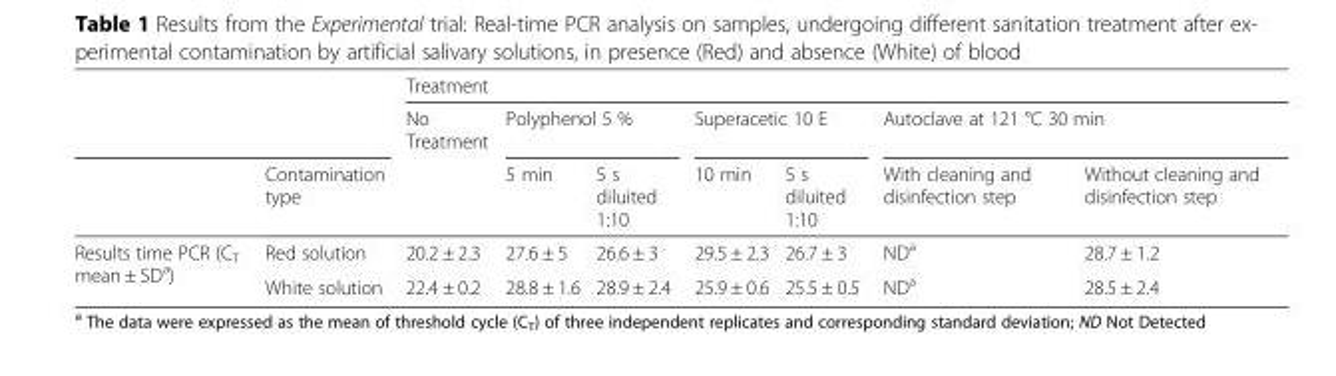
<table><thead><tr><td rowspan="3"></td><td rowspan="3">Contamination type</td><td colspan="7">Treatment</td></tr><tr><td rowspan="2">No Treatment</td><td colspan="2">Polyphenol 5 %</td><td colspan="2">Superacetic 10 E</td><td colspan="2">Autoclave at 121 °C 30 min</td></tr><tr><td>5 min</td><td>5 s diluited 1:10</td><td>10 min</td><td>5 s diluited 1:10</td><td>With cleaning and disinfection step</td><td>Without cleaning and disinfection step</td></tr></thead><tbody><tr><td rowspan="2">Results time PCR (C<sub>T</sub> mean ± SD<sup>a</sup>)</td><td>Red solution</td><td>20.2 ± 2.3</td><td>27.6 ± 5</td><td>26.6 ± 3</td><td>29.5 ± 2.3</td><td>26.7 ± 3</td><td>ND<sup>a</sup></td><td>28.7 ± 1.2</td></tr><tr><td>White solution</td><td>22.4 ± 0.2</td><td>28.8 ± 1.6</td><td>28.9 ± 2.4</td><td>25.9 ± 0.6</td><td>25.5 ± 0.5</td><td>ND<sup>a</sup></td><td>28.5 ± 2.4</td></tr></tbody></table>